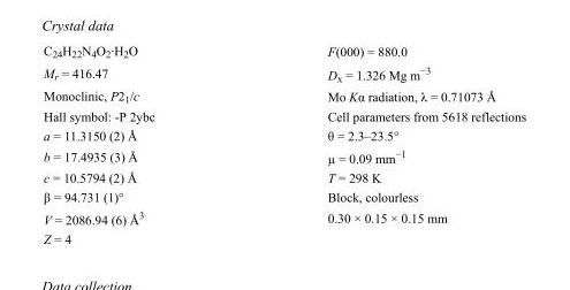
<table><tbody><tr><td>C<sub>24</sub>H<sub>22</sub>N<sub>4</sub>O<sub>2</sub>·H<sub>2</sub>O</td><td>F(000) = 880.0</td></tr><tr><td>M<sub>r</sub> = 416.47</td><td>D<sub>x</sub> = 1.326 Mg m<sup>−3</sup></td></tr><tr><td>Monoclinic, P2<sub>1</sub>/c</td><td>Mo Kα radiation, λ = 0.71073 Å</td></tr><tr><td>Hall symbol: -P 2ybc</td><td>Cell parameters from 5618 reflections</td></tr><tr><td>a = 11.3150 (2) Å</td><td>θ = 2.3–23.5°</td></tr><tr><td>b = 17.4935 (3) Å</td><td>µ = 0.09 mm<sup>−1</sup></td></tr><tr><td>c = 10.5794 (2) Å</td><td>T = 298 K</td></tr><tr><td>β = 94.731 (1)°</td><td>Block, colourless</td></tr><tr><td>V = 2086.94 (6) Å<sup>3</sup></td><td>0.30 × 0.15 × 0.15 mm</td></tr><tr><td>Z = 4</td><td></td></tr></tbody></table>